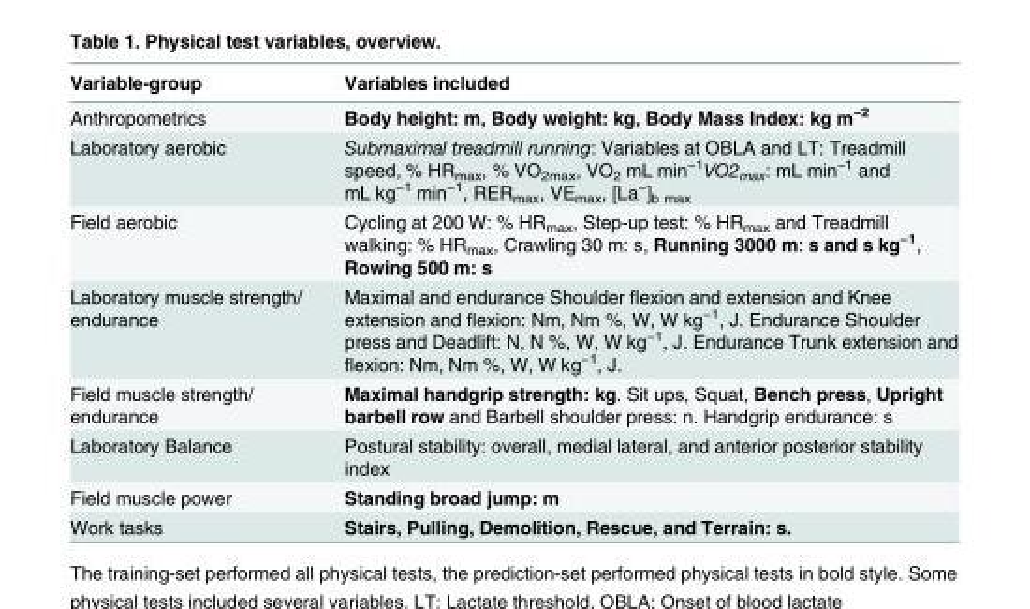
<table><thead><tr><td>Variable-group</td><td>Variables included</td></tr></thead><tbody><tr><td>Anthropometrics</td><td>Body height: m, Body weight: kg, Body Mass Index: kg∙m<sup>−2</sup></td></tr><tr><td>Laboratory aerobic</td><td>Submaximal treadmill running: Variables at OBLA and LT: Treadmill speed, % HR<sub>max</sub>, % VO<sub>2max</sub>, VO<sub>2</sub> mL∙min<sup>−1</sup>VO2<sub>max</sub>: mL∙min<sup>−1</sup> and mL∙kg<sup>−1</sup>∙min<sup>−1</sup>, RER<sub>max</sub>, VE<sub>max</sub>, [La<sup>−</sup>]<sub>b max</sub></td></tr><tr><td>Field aerobic</td><td>Cycling at 200 W: % HR<sub>max</sub>, Step-up test: % HR<sub>max</sub> and Treadmill walking: % HR<sub>max</sub>, Crawling 30 m: s, Running 3000 m: s and s∙kg<sup>−1</sup>, Rowing 500 m: s</td></tr><tr><td>Laboratory muscle strength/ endurance</td><td>Maximal and endurance Shoulder flexion and extension and Knee extension and flexion: Nm, Nm %, W, W∙kg<sup>−1</sup>, J. Endurance Shoulder press and Deadlift: N, N %, W, W∙kg<sup>−1</sup>, J. Endurance Trunk extension and flexion: Nm, Nm %, W, W∙kg<sup>−1</sup>, J.</td></tr><tr><td>Field muscle strength/ endurance</td><td>Maximal handgrip strength: kg. Sit ups, Squat, Bench press, Upright barbell row and Barbell shoulder press: n. Handgrip endurance: s</td></tr><tr><td>Laboratory Balance</td><td>Postural stability: overall, medial lateral, and anterior posterior stability index</td></tr><tr><td>Field muscle power</td><td>Standing broad jump: m</td></tr><tr><td>Work tasks</td><td>Stairs, Pulling, Demolition, Rescue, and Terrain: s.</td></tr></tbody></table>